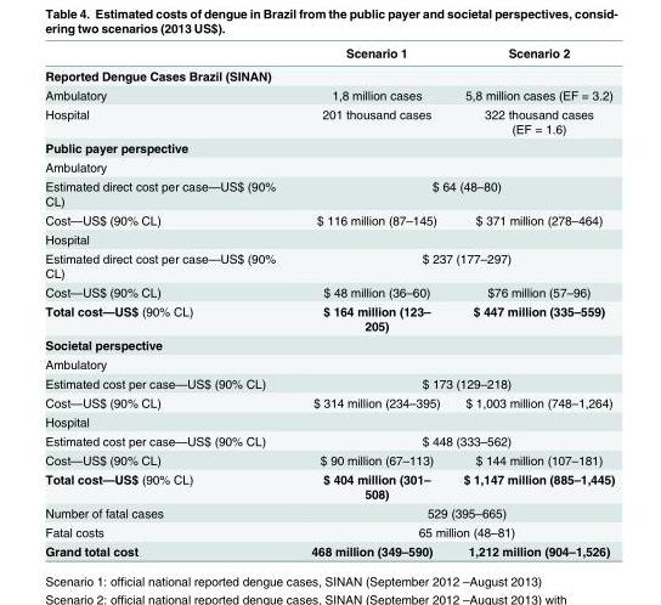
<table><thead><tr><td></td><td>Scenario 1</td><td>Scenario 2</td></tr></thead><tbody><tr><td colspan="3">Reported Dengue Cases Brazil (SINAN)</td></tr><tr><td>Ambulatory</td><td>1,8 million cases</td><td>5,8 million cases (EF = 3.2)</td></tr><tr><td>Hospital</td><td>201 thousand cases</td><td>322 thousand cases (EF = 1.6)</td></tr><tr><td colspan="3">Public payer perspective</td></tr><tr><td colspan="3">Ambulatory</td></tr><tr><td>Estimated direct cost per case—US$ (90% CL)</td><td colspan="2">$ 64 (48–80)</td></tr><tr><td>Cost—US$ (90% CL)</td><td>$ 116 million (87–145)</td><td>$ 371 million (278–464)</td></tr><tr><td colspan="3">Hospital</td></tr><tr><td>Estimated direct cost per case—US$ (90% CL)</td><td colspan="2">$ 237 (177–297)</td></tr><tr><td>Cost—US$ (90% CL)</td><td>$ 48 million (36–60)</td><td>$76 million (57–96)</td></tr><tr><td>Total cost—US$ (90% CL)</td><td>$ 164 million (123– 205)</td><td>$ 447 million (335–559)</td></tr><tr><td colspan="3">Societal perspective</td></tr><tr><td colspan="3">Ambulatory</td></tr><tr><td>Estimated cost per case—US$ (90% CL)</td><td colspan="2">$ 173 (129–218)</td></tr><tr><td>Cost—US$ (90% CL)</td><td>$ 314 million (234–395)</td><td>$ 1,003 million (748–1,264)</td></tr><tr><td colspan="3">Hospital</td></tr><tr><td>Estimated cost per case—US$ (90% CL)</td><td colspan="2">$ 448 (333–562)</td></tr><tr><td>Cost—US$ (90% CL)</td><td>$ 90 million (67–113)</td><td>$ 144 million (107–181)</td></tr><tr><td>Total cost—US$ (90% CL)</td><td>$ 404 million (301– 508)</td><td>$ 1,147 million (885–1,445)</td></tr><tr><td>Number of fatal cases</td><td colspan="2">529 (395–665)</td></tr><tr><td>Fatal costs</td><td colspan="2">65 million (48–81)</td></tr><tr><td>Grand total cost</td><td>468 million (349–590)</td><td>1,212 million (904–1,526)</td></tr></tbody></table>